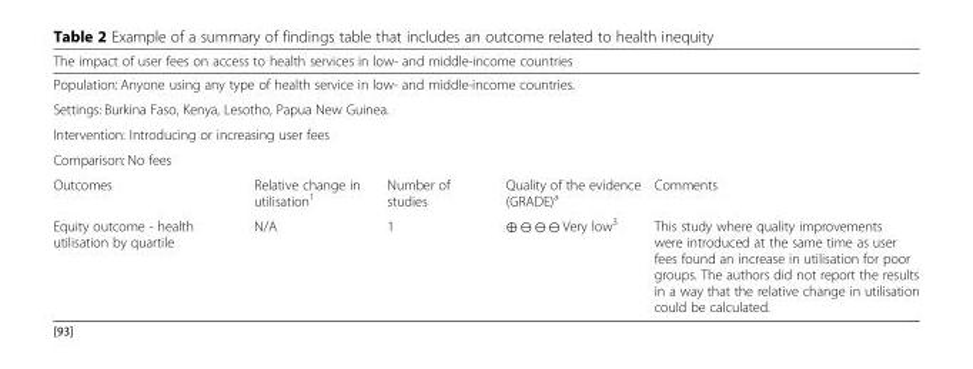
<table><thead><tr><td colspan="5">The impact of user fees on access to health services in low- and middle-income countries</td></tr></thead><tbody><tr><td colspan="5">Population: Anyone using any type of health service in low- and middle-income countries.</td></tr><tr><td colspan="5">Settings: Burkina Faso, Kenya, Lesotho, Papua New Guinea.</td></tr><tr><td colspan="5">Intervention: Introducing or increasing user fees</td></tr><tr><td colspan="5">Comparison: No fees</td></tr><tr><td>Outcomes</td><td>Relative change in utilisation<sup>1</sup></td><td>Number of studies</td><td>Quality of the evidence (GRADE)<sup>a</sup></td><td>Comments</td></tr><tr><td>Equity outcome - health utilisation by quartile</td><td>N/A</td><td>1</td><td>⊕ ⊖ ⊖ ⊖ Very low<sup>3</sup></td><td>This study where quality improvements were introduced at the same time as user fees found an increase in utilisation for poor groups. The authors did not report the results in a way that the relative change in utilisation could be calculated.</td></tr></tbody></table>